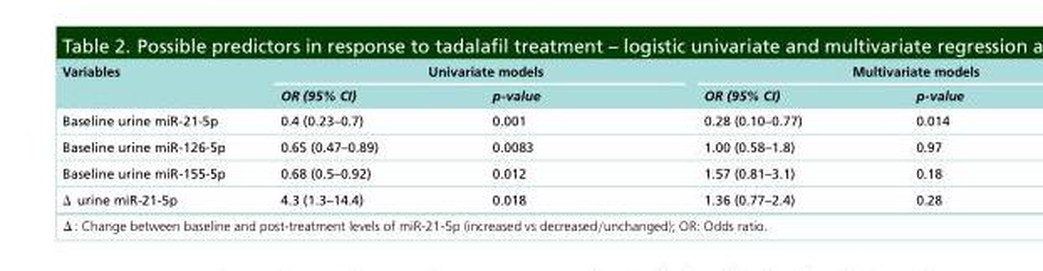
<table><thead><tr><td rowspan="2">Variables</td><td colspan="2">Univariate models</td><td colspan="2">Multivariate models</td></tr><tr><td>OR (95% CI)</td><td>p-value</td><td>OR (95% CI)</td><td>p-value</td></tr></thead><tbody><tr><td>Baseline urine miR-21-5p</td><td>0.4 (0.23–0.7)</td><td>0.001</td><td>0.28 (0.10–0.77)</td><td>0.014</td></tr><tr><td>Baseline urine miR-126-5p</td><td>0.65 (0.47–0.89)</td><td>0.0083</td><td>1.00 (0.58–1.8)</td><td>0.97</td></tr><tr><td>Baseline urine miR-155-5p</td><td>0.68 (0.5–0.92)</td><td>0.012</td><td>1.57 (0.81–3.1)</td><td>0.18</td></tr><tr><td>Δ urine miR-21-5p</td><td>4.3 (1.3–14.4)</td><td>0.018</td><td>1.36 (0.77–2.4)</td><td>0.28</td></tr></tbody></table>